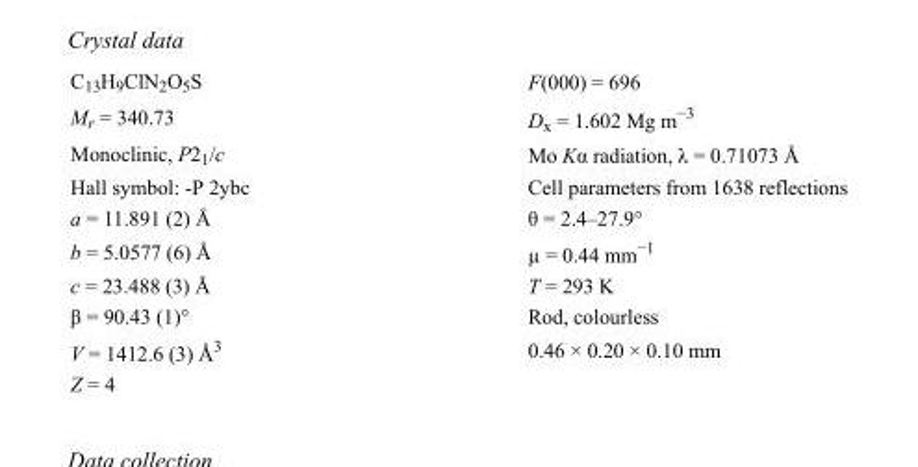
<table><tbody><tr><td>C<sub>13</sub>H<sub>9</sub>ClN<sub>2</sub>O<sub>5</sub>S</td><td>F(000) = 696</td></tr><tr><td>M<sub>r</sub> = 340.73</td><td>D<sub>x</sub> = 1.602 Mg m<sup>−3</sup></td></tr><tr><td>Monoclinic, P2<sub>1</sub>/c</td><td>Mo Kα radiation, λ = 0.71073 Å</td></tr><tr><td>Hall symbol: -P 2ybc</td><td>Cell parameters from 1638 reflections</td></tr><tr><td>a = 11.891 (2) Å</td><td>θ = 2.4–27.9°</td></tr><tr><td>b = 5.0577 (6) Å</td><td>µ = 0.44 mm<sup>−1</sup></td></tr><tr><td>c = 23.488 (3) Å</td><td>T = 293 K</td></tr><tr><td>β = 90.43 (1)°</td><td>Rod, colourless</td></tr><tr><td>V = 1412.6 (3) Å<sup>3</sup></td><td>0.46 × 0.20 × 0.10 mm</td></tr><tr><td>Z = 4</td><td></td></tr></tbody></table>